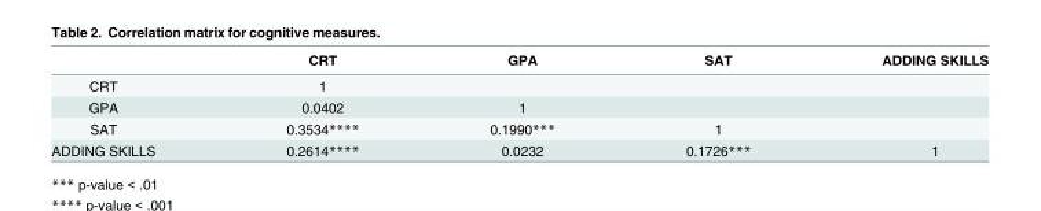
<table><thead><tr><td></td><td>CRT</td><td>GPA</td><td>SAT</td><td>ADDING SKILLS</td></tr></thead><tbody><tr><td>CRT</td><td>1</td><td></td><td></td><td></td></tr><tr><td>GPA</td><td>0.0402</td><td>1</td><td></td><td></td></tr><tr><td>SAT</td><td>0.3534****</td><td>0.1990***</td><td>1</td><td></td></tr><tr><td>ADDING SKILLS</td><td>0.2614****</td><td>0.0232</td><td>0.1726***</td><td>1</td></tr></tbody></table>